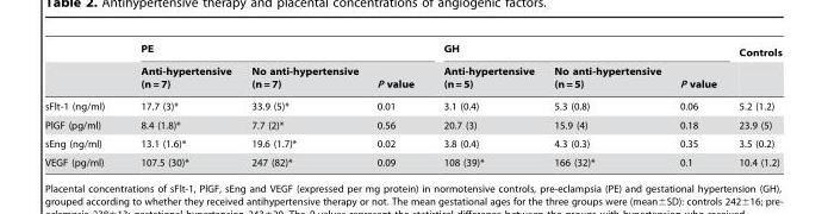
<table><thead><tr><td rowspan="2"></td><td colspan="3">PE</td><td colspan="3">GH</td><td rowspan="2">Controls</td></tr><tr><td>Anti-hypertensive (n = 7)</td><td>No anti-hypertensive (n = 7)</td><td>P value</td><td>Anti-hypertensive (n = 5)</td><td>No anti-hypertensive (n = 5)</td><td>P value</td></tr></thead><tbody><tr><td>sFlt-1 (ng/ml)</td><td>17.7 (3)*</td><td>33.9 (5)*</td><td>0.01</td><td>3.1 (0.4)</td><td>5.3 (0.8)</td><td>0.06</td><td>5.2 (1.2)</td></tr><tr><td>PlGF (pg/ml)</td><td>8.4 (1.8)*</td><td>7.7 (2)*</td><td>0.56</td><td>20.7 (3)</td><td>15.9 (4)</td><td>0.18</td><td>23.9 (5)</td></tr><tr><td>sEng (ng/ml)</td><td>13.1 (1.6)*</td><td>19.6 (1.7)*</td><td>0.02</td><td>3.8 (0.4)</td><td>4.3 (0.3)</td><td>0.35</td><td>3.5 (0.2)</td></tr><tr><td>VEGF (pg/ml)</td><td>107.5 (30)*</td><td>247 (82)*</td><td>0.09</td><td>108 (39)*</td><td>166 (32)*</td><td>0.1</td><td>10.4 (1.2)</td></tr></tbody></table>